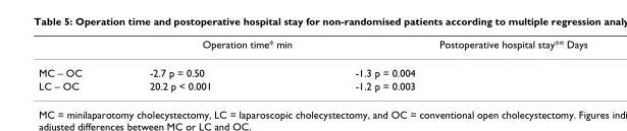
<table><thead><tr><td></td><td>Operation time* min</td><td>Postoperative hospital stay** Days</td></tr></thead><tbody><tr><td>MC – OC</td><td>-2.7 p = 0.50</td><td>-1.3 p = 0.004</td></tr><tr><td>LC – OC</td><td>20.2 p &lt; 0.001</td><td>-1.2 p = 0.003</td></tr></tbody></table>